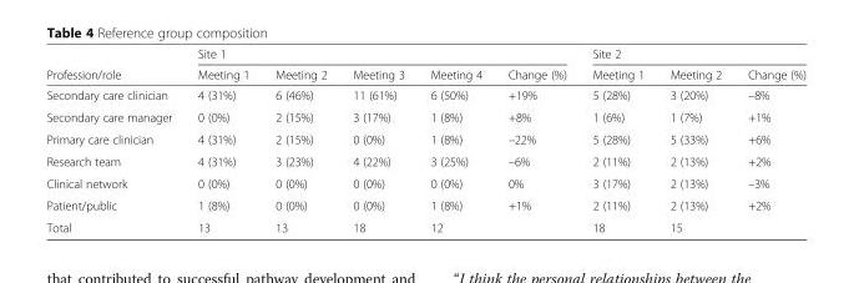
<table><thead><tr><td rowspan="2">Profession/role</td><td colspan="5">Site 1</td><td colspan="3">Site 2</td></tr><tr><td>Meeting 1</td><td>Meeting 2</td><td>Meeting 3</td><td>Meeting 4</td><td>Change (%)</td><td>Meeting 1</td><td>Meeting 2</td><td>Change (%)</td></tr></thead><tbody><tr><td>Secondary care clinician</td><td>4 (31%)</td><td>6 (46%)</td><td>11 (61%)</td><td>6 (50%)</td><td>+19%</td><td>5 (28%)</td><td>3 (20%)</td><td>–8%</td></tr><tr><td>Secondary care manager</td><td>0 (0%)</td><td>2 (15%)</td><td>3 (17%)</td><td>1 (8%)</td><td>+8%</td><td>1 (6%)</td><td>1 (7%)</td><td>+1%</td></tr><tr><td>Primary care clinician</td><td>4 (31%)</td><td>2 (15%)</td><td>0 (0%)</td><td>1 (8%)</td><td>–22%</td><td>5 (28%)</td><td>5 (33%)</td><td>+6%</td></tr><tr><td>Research team</td><td>4 (31%)</td><td>3 (23%)</td><td>4 (22%)</td><td>3 (25%)</td><td>–6%</td><td>2 (11%)</td><td>2 (13%)</td><td>+2%</td></tr><tr><td>Clinical network</td><td>0 (0%)</td><td>0 (0%)</td><td>0 (0%)</td><td>0 (0%)</td><td>0%</td><td>3 (17%)</td><td>2 (13%)</td><td>–3%</td></tr><tr><td>Patient/public</td><td>1 (8%)</td><td>0 (0%)</td><td>0 (0%)</td><td>1 (8%)</td><td>+1%</td><td>2 (11%)</td><td>2 (13%)</td><td>+2%</td></tr><tr><td>Total</td><td>13</td><td>13</td><td>18</td><td>12</td><td></td><td>18</td><td>15</td><td></td></tr></tbody></table>